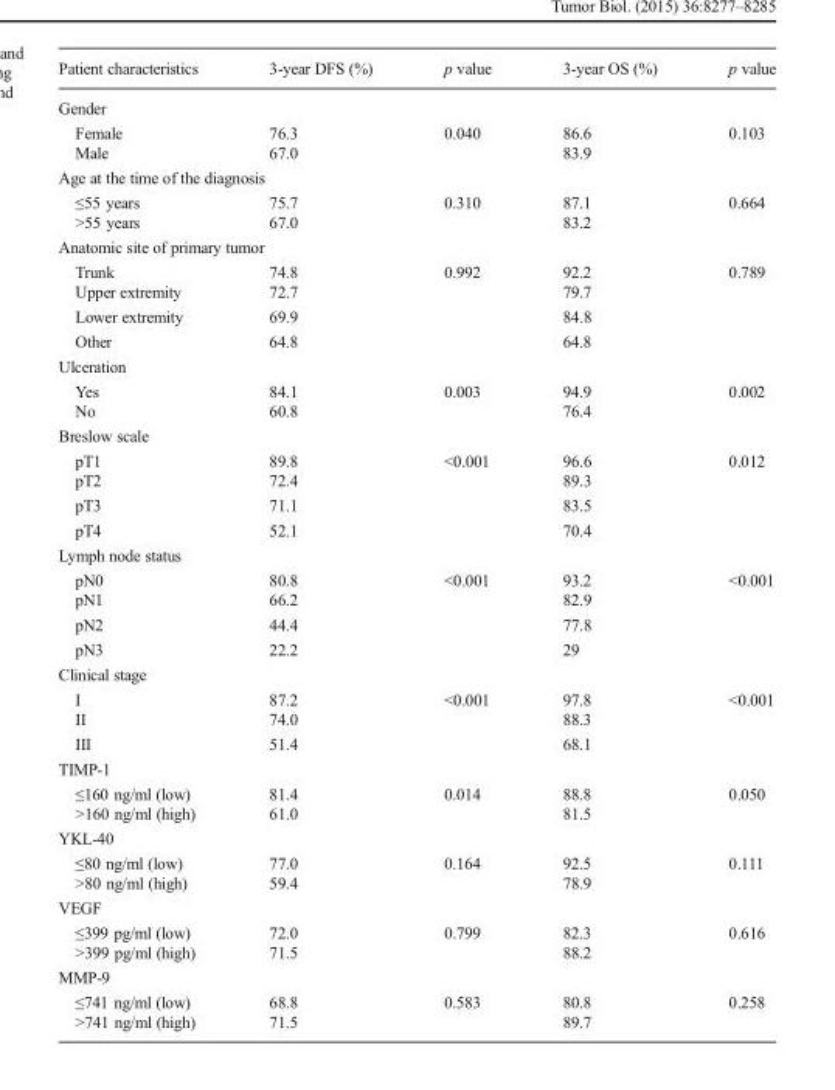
<table><thead><tr><td>Patient characteristics</td><td>3-year DFS (%)</td><td>p value</td><td>3-year OS (%)</td><td>p value</td></tr></thead><tbody><tr><td colspan="5">Gender</td></tr><tr><td>Female</td><td>76.3</td><td rowspan="2">0.040</td><td>86.6</td><td rowspan="2">0.103</td></tr><tr><td>Male</td><td>67.0</td><td>83.9</td></tr><tr><td colspan="5">Age at the time of the diagnosis</td></tr><tr><td>≤55 years</td><td>75.7</td><td rowspan="2">0.310</td><td>87.1</td><td rowspan="2">0.664</td></tr><tr><td>&gt;55 years</td><td>67.0</td><td>83.2</td></tr><tr><td colspan="5">Anatomic site of primary tumor</td></tr><tr><td>Trunk</td><td>74.8</td><td rowspan="4">0.992</td><td>92.2</td><td rowspan="4">0.789</td></tr><tr><td>Upper extremity</td><td>72.7</td><td>79.7</td></tr><tr><td>Lower extremity</td><td>69.9</td><td>84.8</td></tr><tr><td>Other</td><td>64.8</td><td>64.8</td></tr><tr><td colspan="5">Ulceration</td></tr><tr><td>Yes</td><td>84.1</td><td rowspan="2">0.003</td><td>94.9</td><td rowspan="2">0.002</td></tr><tr><td>No</td><td>60.8</td><td>76.4</td></tr><tr><td colspan="5">Breslow scale</td></tr><tr><td>pT1</td><td>89.8</td><td rowspan="4">&lt;0.001</td><td>96.6</td><td rowspan="4">0.012</td></tr><tr><td>pT2</td><td>72.4</td><td>89.3</td></tr><tr><td>pT3</td><td>71.1</td><td>83.5</td></tr><tr><td>pT4</td><td>52.1</td><td>70.4</td></tr><tr><td colspan="5">Lymph node status</td></tr><tr><td>pN0</td><td>80.8</td><td rowspan="4">&lt;0.001</td><td>93.2</td><td rowspan="4">&lt;0.001</td></tr><tr><td>pN1</td><td>66.2</td><td>82.9</td></tr><tr><td>pN2</td><td>44.4</td><td>77.8</td></tr><tr><td>pN3</td><td>22.2</td><td>29</td></tr><tr><td colspan="5">Clinical stage</td></tr><tr><td>I</td><td>87.2</td><td rowspan="3">&lt;0.001</td><td>97.8</td><td rowspan="3">&lt;0.001</td></tr><tr><td>II</td><td>74.0</td><td>88.3</td></tr><tr><td>III</td><td>51.4</td><td>68.1</td></tr><tr><td colspan="5">TIMP-1</td></tr><tr><td>≤160 ng/ml (low)</td><td>81.4</td><td rowspan="2">0.014</td><td>88.8</td><td rowspan="2">0.050</td></tr><tr><td>&gt;160 ng/ml (high)</td><td>61.0</td><td>81.5</td></tr><tr><td colspan="5">YKL-40</td></tr><tr><td>≤80 ng/ml (low)</td><td>77.0</td><td rowspan="2">0.164</td><td>92.5</td><td rowspan="2">0.111</td></tr><tr><td>&gt;80 ng/ml (high)</td><td>59.4</td><td>78.9</td></tr><tr><td colspan="5">VEGF</td></tr><tr><td>≤399 pg/ml (low)</td><td>72.0</td><td rowspan="2">0.799</td><td>82.3</td><td rowspan="2">0.616</td></tr><tr><td>&gt;399 pg/ml (high)</td><td>71.5</td><td>88.2</td></tr><tr><td colspan="5">MMP-9</td></tr><tr><td>≤741 ng/ml (low)</td><td>68.8</td><td rowspan="2">0.583</td><td>80.8</td><td rowspan="2">0.258</td></tr><tr><td>&gt;741 ng/ml (high)</td><td>71.5</td><td>89.7</td></tr></tbody></table>